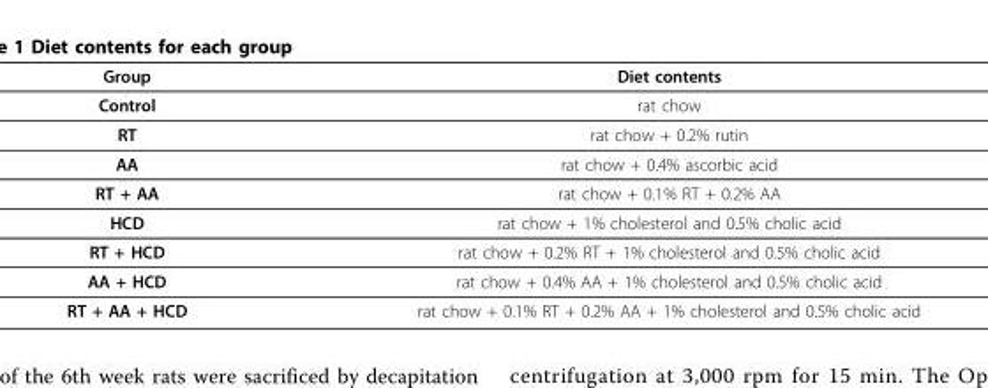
<table><thead><tr><td>Group</td><td>Diet contents</td></tr></thead><tbody><tr><td>Control</td><td>rat chow</td></tr><tr><td>RT</td><td>rat chow + 0.2% rutin</td></tr><tr><td>AA</td><td>rat chow + 0.4% ascorbic acid</td></tr><tr><td>RT + AA</td><td>rat chow + 0.1% RT + 0.2% AA</td></tr><tr><td>HCD</td><td>rat chow + 1% cholesterol and 0.5% cholic acid</td></tr><tr><td>RT + HCD</td><td>rat chow + 0.2% RT + 1% cholesterol and 0.5% cholic acid</td></tr><tr><td>AA + HCD</td><td>rat chow + 0.4% AA + 1% cholesterol and 0.5% cholic acid</td></tr><tr><td>RT + AA + HCD</td><td>rat chow + 0.1% RT + 0.2% AA + 1% cholesterol and 0.5% cholic acid</td></tr></tbody></table>